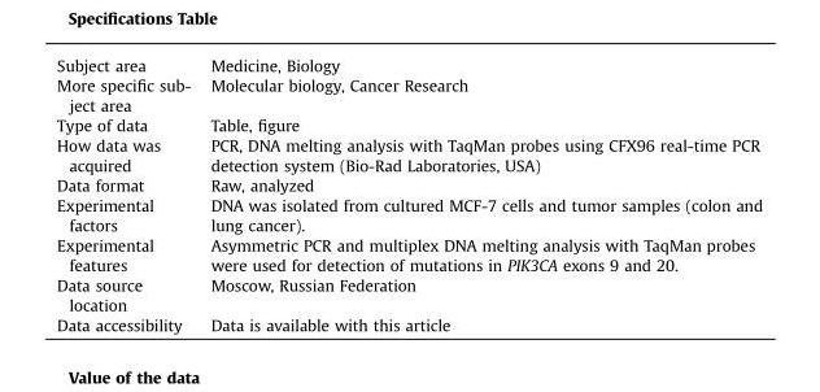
<table><tbody><tr><td>Subject area</td><td>Medicine, Biology</td></tr><tr><td>More specific sub- ject area</td><td>Molecular biology, Cancer Research</td></tr><tr><td>Type of data</td><td>Table, figure</td></tr><tr><td>How data was acquired</td><td>PCR, DNA melting analysis with TaqMan probes using CFX96 real-time PCR detection system (Bio-Rad Laboratories, USA)</td></tr><tr><td>Data format</td><td>Raw, analyzed</td></tr><tr><td>Experimental factors</td><td>DNA was isolated from cultured MCF-7 cells and tumor samples (colon and lung cancer).</td></tr><tr><td>Experimental features</td><td>Asymmetric PCR and multiplex DNA melting analysis with TaqMan probes were used for detection of mutations in PIK3CA exons 9 and 20.</td></tr><tr><td>Data source location</td><td>Moscow, Russian Federation</td></tr><tr><td>Data accessibility</td><td>Data is available with this article</td></tr></tbody></table>